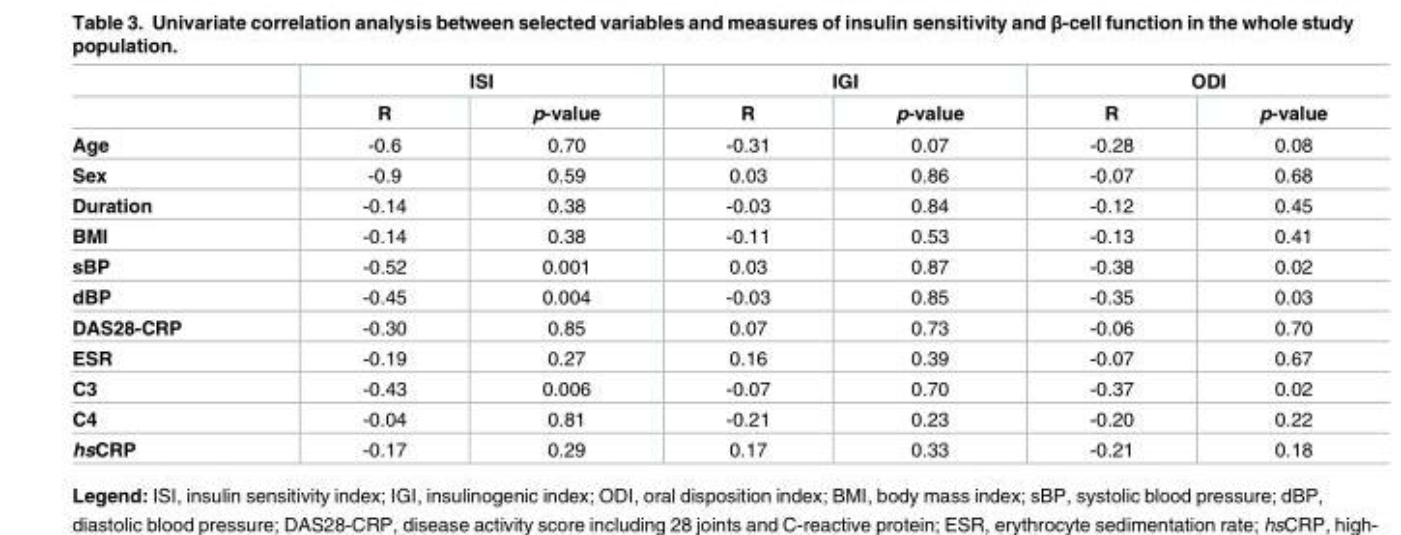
<table><thead><tr><td rowspan="2"></td><td colspan="2">ISI</td><td colspan="2">IGI</td><td colspan="2">ODI</td></tr><tr><td>R</td><td>p-value</td><td>R</td><td>p-value</td><td>R</td><td>p-value</td></tr></thead><tbody><tr><td>Age</td><td>-0.6</td><td>0.70</td><td>-0.31</td><td>0.07</td><td>-0.28</td><td>0.08</td></tr><tr><td>Sex</td><td>-0.9</td><td>0.59</td><td>0.03</td><td>0.86</td><td>-0.07</td><td>0.68</td></tr><tr><td>Duration</td><td>-0.14</td><td>0.38</td><td>-0.03</td><td>0.84</td><td>-0.12</td><td>0.45</td></tr><tr><td>BMI</td><td>-0.14</td><td>0.38</td><td>-0.11</td><td>0.53</td><td>-0.13</td><td>0.41</td></tr><tr><td>sBP</td><td>-0.52</td><td>0.001</td><td>0.03</td><td>0.87</td><td>-0.38</td><td>0.02</td></tr><tr><td>dBP</td><td>-0.45</td><td>0.004</td><td>-0.03</td><td>0.85</td><td>-0.35</td><td>0.03</td></tr><tr><td>DAS28-CRP</td><td>-0.30</td><td>0.85</td><td>0.07</td><td>0.73</td><td>-0.06</td><td>0.70</td></tr><tr><td>ESR</td><td>-0.19</td><td>0.27</td><td>0.16</td><td>0.39</td><td>-0.07</td><td>0.67</td></tr><tr><td>C3</td><td>-0.43</td><td>0.006</td><td>-0.07</td><td>0.70</td><td>-0.37</td><td>0.02</td></tr><tr><td>C4</td><td>-0.04</td><td>0.81</td><td>-0.21</td><td>0.23</td><td>-0.20</td><td>0.22</td></tr><tr><td>hsCRP</td><td>-0.17</td><td>0.29</td><td>0.17</td><td>0.33</td><td>-0.21</td><td>0.18</td></tr></tbody></table>